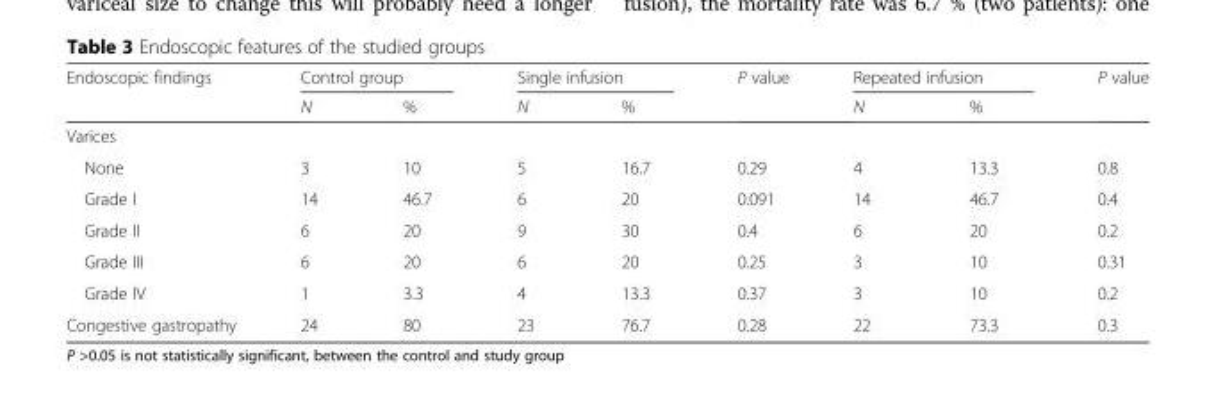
<table><thead><tr><td rowspan="2">Endoscopic findings</td><td colspan="2">Control group</td><td colspan="2">Single infusion</td><td rowspan="2">P value</td><td colspan="2">Repeated infusion</td><td rowspan="2">P value</td></tr><tr><td>N</td><td>%</td><td>N</td><td>%</td><td>N</td><td>%</td></tr></thead><tbody><tr><td colspan="9">Varices</td></tr><tr><td>None</td><td>3</td><td>10</td><td>5</td><td>16.7</td><td>0.29</td><td>4</td><td>13.3</td><td>0.8</td></tr><tr><td>Grade I</td><td>14</td><td>46.7</td><td>6</td><td>20</td><td>0.091</td><td>14</td><td>46.7</td><td>0.4</td></tr><tr><td>Grade II</td><td>6</td><td>20</td><td>9</td><td>30</td><td>0.4</td><td>6</td><td>20</td><td>0.2</td></tr><tr><td>Grade III</td><td>6</td><td>20</td><td>6</td><td>20</td><td>0.25</td><td>3</td><td>10</td><td>0.31</td></tr><tr><td>Grade IV</td><td>1</td><td>3.3</td><td>4</td><td>13.3</td><td>0.37</td><td>3</td><td>10</td><td>0.2</td></tr><tr><td>Congestive gastropathy</td><td>24</td><td>80</td><td>23</td><td>76.7</td><td>0.28</td><td>22</td><td>73.3</td><td>0.3</td></tr></tbody></table>